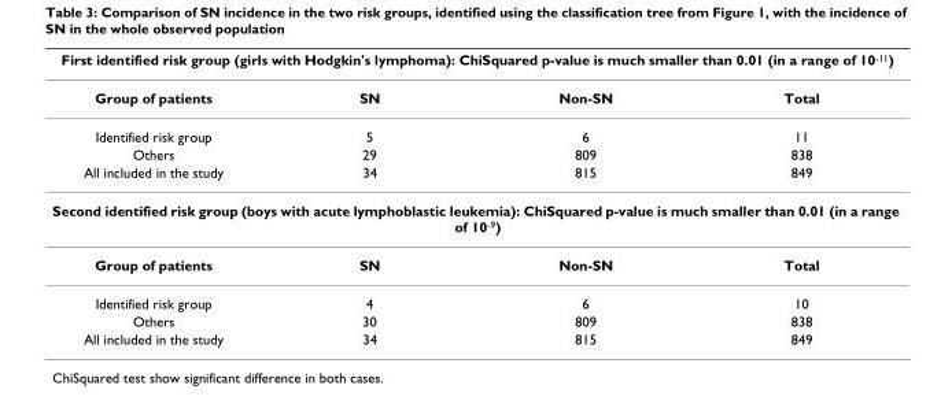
<table><thead><tr><td colspan="4">First identified risk group (girls with Hodgkin&#x27;s lymphoma): ChiSquared p-value is much smaller than 0.01 (in a range of 10-11)</td></tr><tr><td>Group of patients</td><td>SN</td><td>Non-SN</td><td>Total</td></tr></thead><tbody><tr><td>Identified risk group</td><td>5</td><td>6</td><td>11</td></tr><tr><td>Others</td><td>29</td><td>809</td><td>838</td></tr><tr><td>All included in the study</td><td>34</td><td>815</td><td>849</td></tr><tr><td colspan="4">Second identified risk group (boys with acute lymphoblastic leukemia): ChiSquared p-value is much smaller than 0.01 (in a range of 10-9)</td></tr><tr><td>Group of patients</td><td>SN</td><td>Non-SN</td><td>Total</td></tr><tr><td>Identified risk group</td><td>4</td><td>6</td><td>10</td></tr><tr><td>Others</td><td>30</td><td>809</td><td>838</td></tr><tr><td>All included in the study</td><td>34</td><td>815</td><td>849</td></tr></tbody></table>